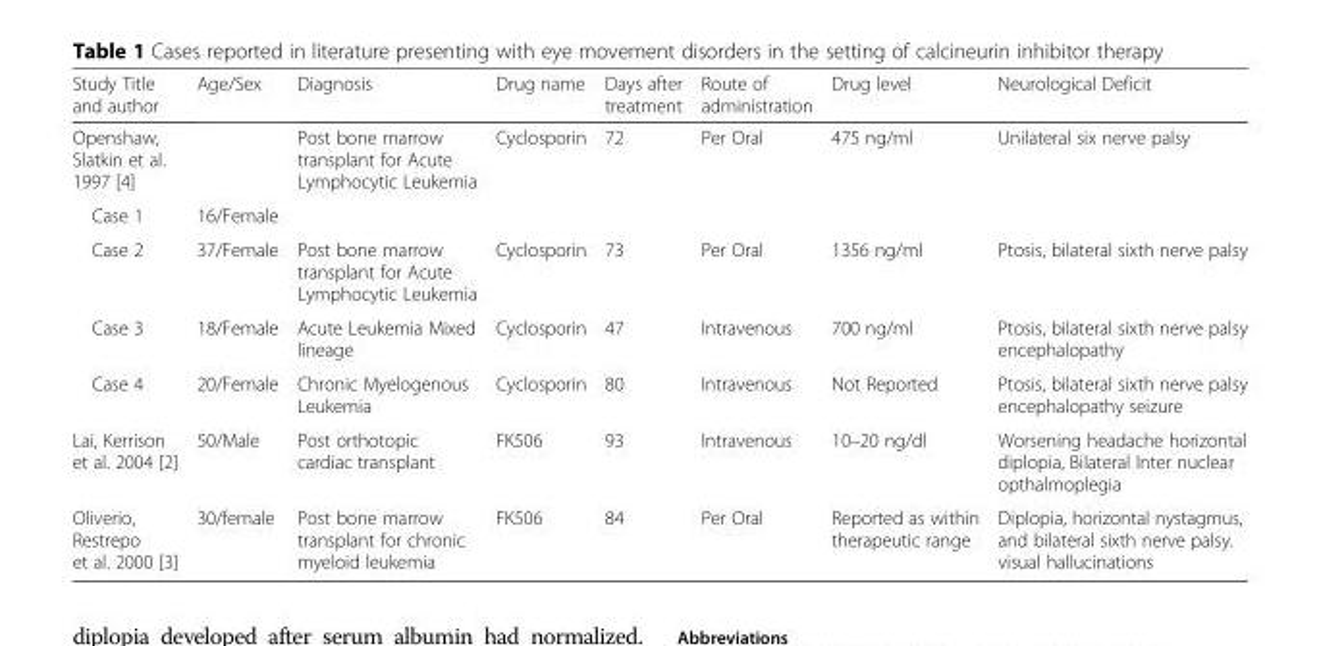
<table><thead><tr><td>Study Title and author</td><td>Age/Sex</td><td>Diagnosis</td><td>Drug name</td><td>Days after treatment</td><td>Route of administration</td><td>Drug level</td><td>Neurological Deficit</td></tr></thead><tbody><tr><td colspan="2">Openshaw, Slatkin et al. 1997 [4]</td><td rowspan="2">Post bone marrow transplant for Acute Lymphocytic Leukemia</td><td rowspan="2">Cyclosporin</td><td rowspan="2">72</td><td rowspan="2">Per Oral</td><td rowspan="2">475 ng/ml</td><td rowspan="2">Unilateral six nerve palsy</td></tr><tr><td>Case 1</td><td>16/Female</td></tr><tr><td>Case 2</td><td>37/Female</td><td>Post bone marrow transplant for Acute Lymphocytic Leukemia</td><td>Cyclosporin</td><td>73</td><td>Per Oral</td><td>1356 ng/ml</td><td>Ptosis, bilateral sixth nerve palsy</td></tr><tr><td>Case 3</td><td>18/Female</td><td>Acute Leukemia Mixed lineage</td><td>Cyclosporin</td><td>47</td><td>Intravenous</td><td>700 ng/ml</td><td>Ptosis, bilateral sixth nerve palsy encephalopathy</td></tr><tr><td>Case 4</td><td>20/Female</td><td>Chronic Myelogenous Leukemia</td><td>Cyclosporin</td><td>80</td><td>Intravenous</td><td>Not Reported</td><td>Ptosis, bilateral sixth nerve palsy encephalopathy seizure</td></tr><tr><td>Lai, Kerrison et al. 2004 [2]</td><td>50/Male</td><td>Post orthotopic cardiac transplant</td><td>FK506</td><td>93</td><td>Intravenous</td><td>10–20 ng/dl</td><td>Worsening headache horizontal diplopia, Bilateral Inter nuclear opthalmoplegia</td></tr><tr><td>Oliverio, Restrepo et al. 2000 [3]</td><td>30/female</td><td>Post bone marrow transplant for chronic myeloid leukemia</td><td>FK506</td><td>84</td><td>Per Oral</td><td>Reported as within therapeutic range</td><td>Diplopia, horizontal nystagmus, and bilateral sixth nerve palsy. visual hallucinations</td></tr></tbody></table>